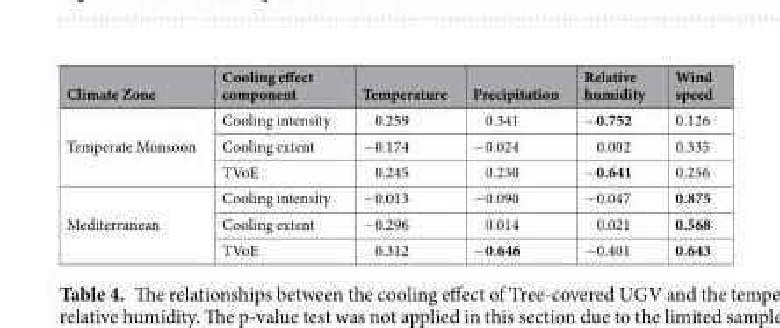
<table><thead><tr><td>Climate Zone</td><td>Cooling effect component</td><td>Temperature</td><td>Precipitation</td><td>Relative humidity</td><td>Wind speed</td></tr></thead><tbody><tr><td rowspan="3">Temperate Monsoon</td><td>Cooling intensity</td><td>0.259</td><td>0.341</td><td>−0.752</td><td>0.126</td></tr><tr><td>Cooling extent</td><td>−0.174</td><td>−0.024</td><td>0.002</td><td>0.335</td></tr><tr><td>TVoE</td><td>0.245</td><td>0.230</td><td>−0.641</td><td>0.256</td></tr><tr><td rowspan="3">Mediterranean</td><td>Cooling intensity</td><td>−0.013</td><td>−0.090</td><td>−0.047</td><td>0.875</td></tr><tr><td>Cooling extent</td><td>−0.296</td><td>0.014</td><td>0.021</td><td>0.568</td></tr><tr><td>TVoE</td><td>0.312</td><td>−0.646</td><td>−0.401</td><td>0.643</td></tr></tbody></table>